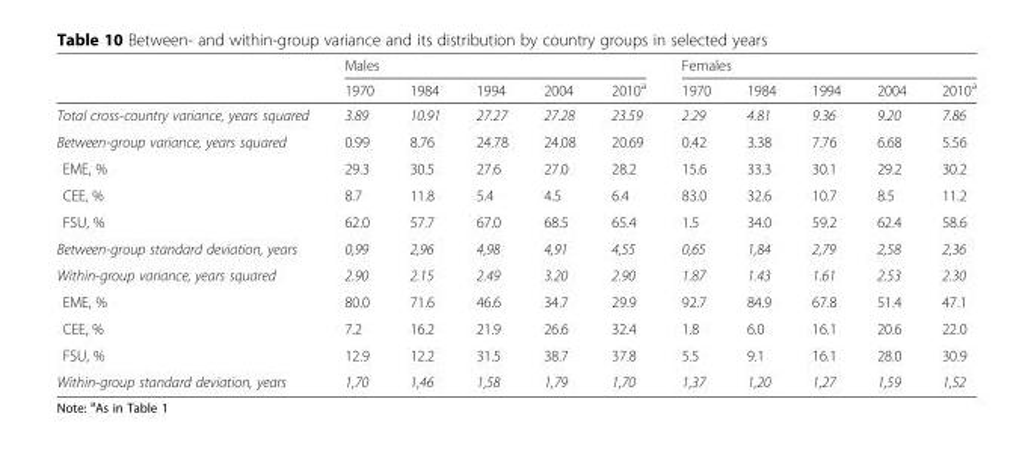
<table><thead><tr><td rowspan="2"></td><td colspan="5">Males</td><td colspan="5">Females</td></tr><tr><td>1970</td><td>1984</td><td>1994</td><td>2004</td><td>2010<sup>a</sup></td><td>1970</td><td>1984</td><td>1994</td><td>2004</td><td>2010<sup>a</sup></td></tr></thead><tbody><tr><td>Total cross-country variance, years squared</td><td>3.89</td><td>10.91</td><td>27.27</td><td>27.28</td><td>23.59</td><td>2.29</td><td>4.81</td><td>9.36</td><td>9.20</td><td>7.86</td></tr><tr><td>Between-group variance, years squared</td><td>0.99</td><td>8.76</td><td>24.78</td><td>24.08</td><td>20.69</td><td>0.42</td><td>3.38</td><td>7.76</td><td>6.68</td><td>5.56</td></tr><tr><td>EME, %</td><td>29.3</td><td>30.5</td><td>27.6</td><td>27.0</td><td>28.2</td><td>15.6</td><td>33.3</td><td>30.1</td><td>29.2</td><td>30.2</td></tr><tr><td>CEE, %</td><td>8.7</td><td>11.8</td><td>5.4</td><td>4.5</td><td>6.4</td><td>83.0</td><td>32.6</td><td>10.7</td><td>8.5</td><td>11.2</td></tr><tr><td>FSU, %</td><td>62.0</td><td>57.7</td><td>67.0</td><td>68.5</td><td>65.4</td><td>1.5</td><td>34.0</td><td>59.2</td><td>62.4</td><td>58.6</td></tr><tr><td>Between-group standard deviation, years</td><td>0,99</td><td>2,96</td><td>4,98</td><td>4,91</td><td>4,55</td><td>0,65</td><td>1,84</td><td>2,79</td><td>2,58</td><td>2,36</td></tr><tr><td>Within-group variance, years squared</td><td>2.90</td><td>2.15</td><td>2.49</td><td>3.20</td><td>2.90</td><td>1.87</td><td>1.43</td><td>1.61</td><td>2.53</td><td>2.30</td></tr><tr><td>EME, %</td><td>80.0</td><td>71.6</td><td>46.6</td><td>34.7</td><td>29.9</td><td>92.7</td><td>84.9</td><td>67.8</td><td>51.4</td><td>47.1</td></tr><tr><td>CEE, %</td><td>7.2</td><td>16.2</td><td>21.9</td><td>26.6</td><td>32.4</td><td>1.8</td><td>6.0</td><td>16.1</td><td>20.6</td><td>22.0</td></tr><tr><td>FSU, %</td><td>12.9</td><td>12.2</td><td>31.5</td><td>38.7</td><td>37.8</td><td>5.5</td><td>9.1</td><td>16.1</td><td>28.0</td><td>30.9</td></tr><tr><td>Within-group standard deviation, years</td><td>1,70</td><td>1,46</td><td>1,58</td><td>1,79</td><td>1,70</td><td>1,37</td><td>1,20</td><td>1,27</td><td>1,59</td><td>1,52</td></tr></tbody></table>